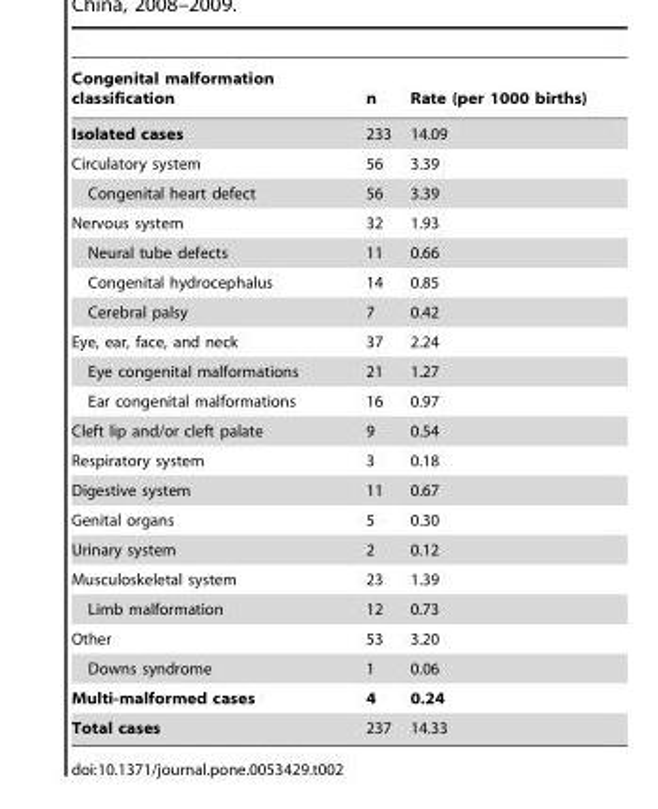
<table><thead><tr><td>Congenital malformation classification</td><td>n</td><td>Rate (per 1000 births)</td></tr></thead><tbody><tr><td>Isolated cases</td><td>233</td><td>14.09</td></tr><tr><td>Circulatory system</td><td>56</td><td>3.39</td></tr><tr><td>Congenital heart defect</td><td>56</td><td>3.39</td></tr><tr><td>Nervous system</td><td>32</td><td>1.93</td></tr><tr><td>Neural tube defects</td><td>11</td><td>0.66</td></tr><tr><td>Congenital hydrocephalus</td><td>14</td><td>0.85</td></tr><tr><td>Cerebral palsy</td><td>7</td><td>0.42</td></tr><tr><td>Eye, ear, face, and neck</td><td>37</td><td>2.24</td></tr><tr><td>Eye congenital malformations</td><td>21</td><td>1.27</td></tr><tr><td>Ear congenital malformations</td><td>16</td><td>0.97</td></tr><tr><td>Cleft lip and/or cleft palate</td><td>9</td><td>0.54</td></tr><tr><td>Respiratory system</td><td>3</td><td>0.18</td></tr><tr><td>Digestive system</td><td>11</td><td>0.67</td></tr><tr><td>Genital organs</td><td>5</td><td>0.30</td></tr><tr><td>Urinary system</td><td>2</td><td>0.12</td></tr><tr><td>Musculoskeletal system</td><td>23</td><td>1.39</td></tr><tr><td>Limb malformation</td><td>12</td><td>0.73</td></tr><tr><td>Other</td><td>53</td><td>3.20</td></tr><tr><td>Downs syndrome</td><td>1</td><td>0.06</td></tr><tr><td>Multi-malformed cases</td><td>4</td><td>0.24</td></tr><tr><td>Total cases</td><td>237</td><td>14.33</td></tr></tbody></table>